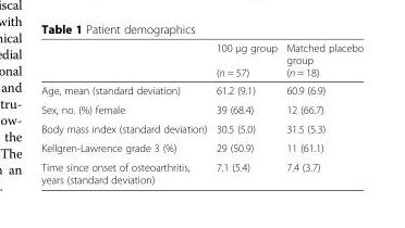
<table><thead><tr><td></td><td>100 μg group (n = 57)</td><td>Matched placebo group (n = 18)</td></tr></thead><tbody><tr><td>Age, mean (standard deviation)</td><td>61.2 (9.1)</td><td>60.9 (6.9)</td></tr><tr><td>Sex, no. (%) female</td><td>39 (68.4)</td><td>12 (66.7)</td></tr><tr><td>Body mass index (standard deviation)</td><td>30.5 (5.0)</td><td>31.5 (5.3)</td></tr><tr><td>Kellgren-Lawrence grade 3 (%)</td><td>29 (50.9)</td><td>11 (61.1)</td></tr><tr><td>Time since onset of osteoarthritis, years (standard deviation)</td><td>7.1 (5.4)</td><td>7.4 (3.7)</td></tr></tbody></table>